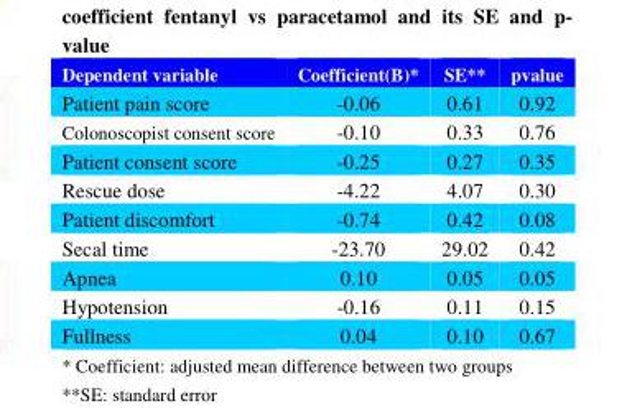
<table><thead><tr><td>Dependent variable</td><td>Coefficient(B)*</td><td>SE**</td><td>pvalue</td></tr></thead><tbody><tr><td>Patient pain score</td><td>-0.06</td><td>0.61</td><td>0.92</td></tr><tr><td>Colonoscopist consent score</td><td>-0.10</td><td>0.33</td><td>0.76</td></tr><tr><td>Patient consent score</td><td>-0.25</td><td>0.27</td><td>0.35</td></tr><tr><td>Rescue dose</td><td>-4.22</td><td>4.07</td><td>0.30</td></tr><tr><td>Patient discomfort</td><td>-0.74</td><td>0.42</td><td>0.08</td></tr><tr><td>Secal time</td><td>-23.70</td><td>29.02</td><td>0.42</td></tr><tr><td>Apnea</td><td>0.10</td><td>0.05</td><td>0.05</td></tr><tr><td>Hypotension</td><td>-0.16</td><td>0.11</td><td>0.15</td></tr><tr><td>Fullness</td><td>0.04</td><td>0.10</td><td>0.67</td></tr></tbody></table>